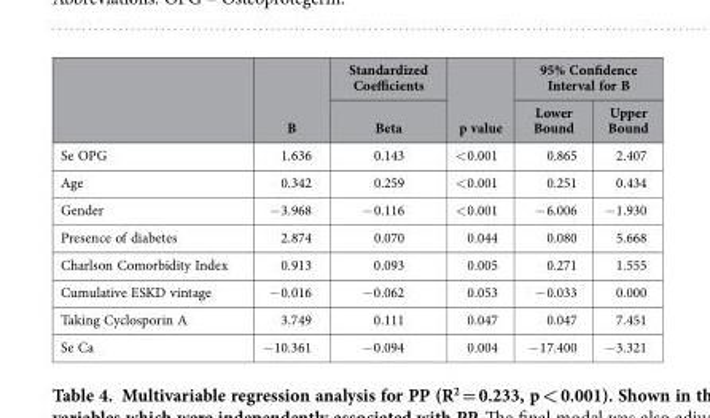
<table><thead><tr><td rowspan="2"></td><td rowspan="2">B</td><td rowspan="2">Standardized Coefficients Beta</td><td rowspan="2">p value</td><td colspan="2">95% Confidence Interval for B</td></tr><tr><td>Lower Bound</td><td>Upper Bound</td></tr></thead><tbody><tr><td>Se OPG</td><td>1.636</td><td>0.143</td><td>&lt; 0.001</td><td>0.865</td><td>2.407</td></tr><tr><td>Age</td><td>0.342</td><td>0.259</td><td>&lt; 0.001</td><td>0.251</td><td>0.434</td></tr><tr><td>Gender</td><td>− 3.968</td><td>− 0.116</td><td>&lt; 0.001</td><td>− 6.006</td><td>− 1.930</td></tr><tr><td>Presence of diabetes</td><td>2.874</td><td>0.070</td><td>0.044</td><td>0.080</td><td>5.668</td></tr><tr><td>Charlson Comorbidity Index</td><td>0.913</td><td>0.093</td><td>0.005</td><td>0.271</td><td>1.555</td></tr><tr><td>Cumulative ESKD vintage</td><td>− 0.016</td><td>− 0.062</td><td>0.053</td><td>− 0.033</td><td>0.000</td></tr><tr><td>Taking Cyclosporin A</td><td>3.749</td><td>0.111</td><td>0.047</td><td>0.047</td><td>7.451</td></tr><tr><td>Se Ca</td><td>− 10.361</td><td>− 0.094</td><td>0.004</td><td>− 17.400</td><td>− 3.321</td></tr></tbody></table>